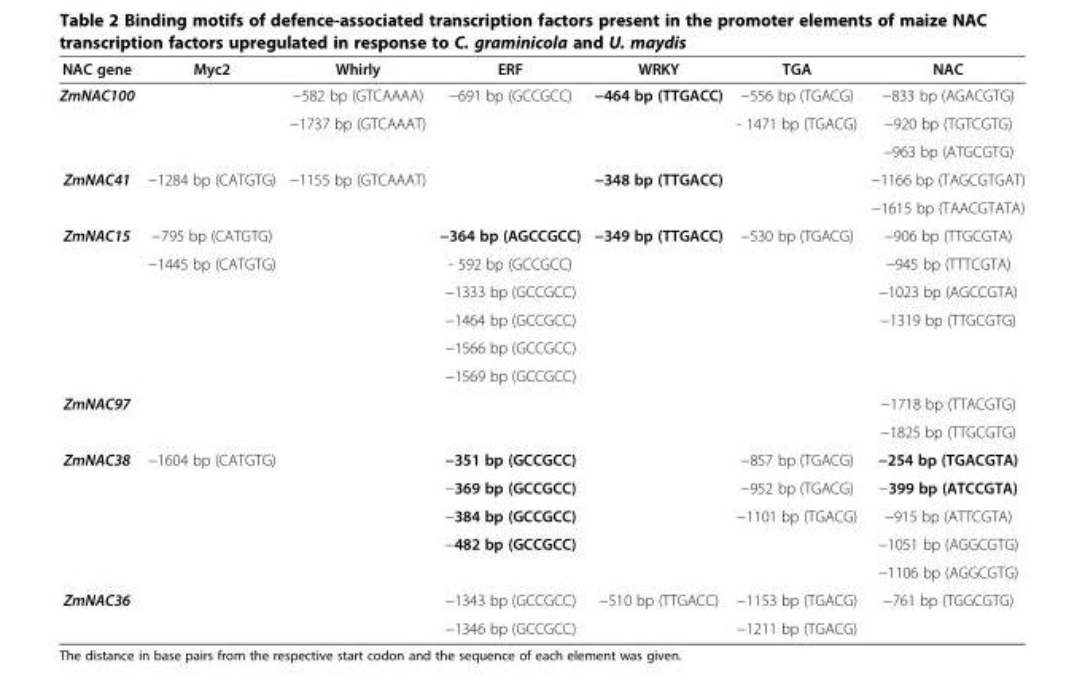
<table><thead><tr><td>NAC gene</td><td>Myc2</td><td>Whirly</td><td>ERF</td><td>WRKY</td><td>TGA</td><td>NAC</td></tr></thead><tbody><tr><td rowspan="3">ZmNAC100</td><td rowspan="3"></td><td>−582 bp (GTCAAAA)</td><td rowspan="3">−691 bp (GCCGCC)</td><td rowspan="3">−464 bp (TTGACC)</td><td>−556 bp (TGACG)</td><td>−833 bp (AGACGTG)</td></tr><tr><td rowspan="2">−1737 bp (GTCAAAT)</td><td rowspan="2">- 1471 bp (TGACG)</td><td>−920 bp (TGTCGTG)</td></tr><tr><td>−963 bp (ATGCGTG)</td></tr><tr><td rowspan="2">ZmNAC41</td><td rowspan="2">−1284 bp (CATGTG)</td><td rowspan="2">−1155 bp (GTCAAAT)</td><td rowspan="2"></td><td rowspan="2">−348 bp (TTGACC)</td><td rowspan="2"></td><td>−1166 bp (TAGCGTGAT)</td></tr><tr><td>−1615 bp (TAACGTATA)</td></tr><tr><td rowspan="6">ZmNAC15</td><td>−795 bp (CATGTG)</td><td rowspan="6"></td><td>−364 bp (AGCCGCC)</td><td rowspan="6">−349 bp (TTGACC)</td><td rowspan="6">−530 bp (TGACG)</td><td>−906 bp (TTGCGTA)</td></tr><tr><td rowspan="5">−1445 bp (CATGTG)</td><td>- 592 bp (GCCGCC)</td><td>−945 bp (TTTCGTA)</td></tr><tr><td>−1333 bp (GCCGCC)</td><td>−1023 bp (AGCCGTA)</td></tr><tr><td>−1464 bp (GCCGCC)</td><td rowspan="3">−1319 bp (TTGCGTG)</td></tr><tr><td>−1566 bp (GCCGCC)</td></tr><tr><td>−1569 bp (GCCGCC)</td></tr><tr><td rowspan="2">ZmNAC97</td><td rowspan="2"></td><td rowspan="7"></td><td rowspan="2"></td><td rowspan="7"></td><td rowspan="2"></td><td>−1718 bp (TTACGTG)</td></tr><tr><td>−1825 bp (TTGCGTG)</td></tr><tr><td rowspan="5">ZmNAC38</td><td rowspan="5">−1604 bp (CATGTG)</td><td>−351 bp (GCCGCC)</td><td>−857 bp (TGACG)</td><td>−254 bp (TGACGTA)</td></tr><tr><td>−369 bp (GCCGCC)</td><td>−952 bp (TGACG)</td><td>−399 bp (ATCCGTA)</td></tr><tr><td>−384 bp (GCCGCC)</td><td rowspan="3">−1101 bp (TGACG)</td><td>−915 bp (ATTCGTA)</td></tr><tr><td rowspan="2">−482 bp (GCCGCC)</td><td>−1051 bp (AGGCGTG)</td></tr><tr><td>−1106 bp (AGGCGTG)</td></tr><tr><td rowspan="2">ZmNAC36</td><td rowspan="2"></td><td rowspan="2"></td><td>−1343 bp (GCCGCC)</td><td rowspan="2">−510 bp (TTGACC)</td><td>−1153 bp (TGACG)</td><td rowspan="2">−761 bp (TGGCGTG)</td></tr><tr><td>−1346 bp (GCCGCC)</td><td>−1211 bp (TGACG)</td></tr></tbody></table>